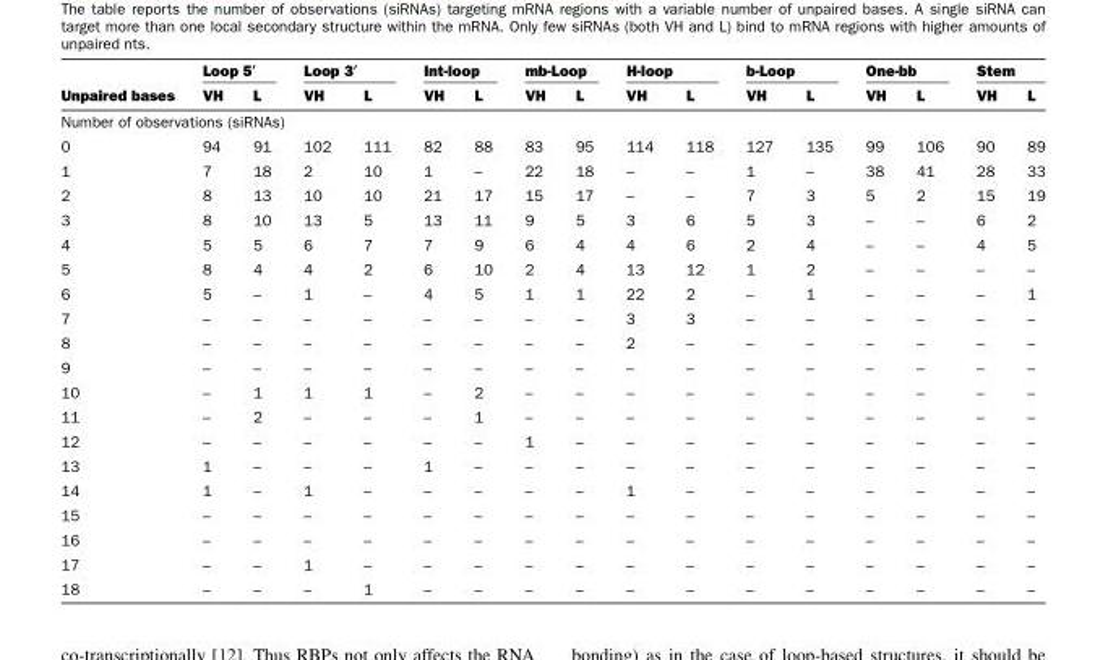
<table><thead><tr><td rowspan="2">Unpaired bases</td><td colspan="2">Loop 5′</td><td colspan="2">Loop 3′</td><td colspan="2">Int-loop</td><td colspan="2">mb-Loop</td><td colspan="2">H-loop</td><td colspan="2">b-Loop</td><td colspan="2">One-bb</td><td colspan="2">Stem</td></tr><tr><td>VH</td><td>L</td><td>VH</td><td>L</td><td>VH</td><td>L</td><td>VH</td><td>L</td><td>VH</td><td>L</td><td>VH</td><td>L</td><td>VH</td><td>L</td><td>VH</td><td>L</td></tr></thead><tbody><tr><td colspan="17">Number of observations (siRNAs)</td></tr><tr><td>0</td><td>94</td><td>91</td><td>102</td><td>111</td><td>82</td><td>88</td><td>83</td><td>95</td><td>114</td><td>118</td><td>127</td><td>135</td><td>99</td><td>106</td><td>90</td><td>89</td></tr><tr><td>1</td><td>7</td><td>18</td><td>2</td><td>10</td><td>1</td><td>–</td><td>22</td><td>18</td><td>–</td><td>–</td><td>1</td><td>–</td><td>38</td><td>41</td><td>28</td><td>33</td></tr><tr><td>2</td><td>8</td><td>13</td><td>10</td><td>10</td><td>21</td><td>17</td><td>15</td><td>17</td><td>–</td><td>–</td><td>7</td><td>3</td><td>5</td><td>2</td><td>15</td><td>19</td></tr><tr><td>3</td><td>8</td><td>10</td><td>13</td><td>5</td><td>13</td><td>11</td><td>9</td><td>5</td><td>3</td><td>6</td><td>5</td><td>3</td><td>–</td><td>–</td><td>6</td><td>2</td></tr><tr><td>4</td><td>5</td><td>5</td><td>6</td><td>7</td><td>7</td><td>9</td><td>6</td><td>4</td><td>4</td><td>6</td><td>2</td><td>4</td><td>–</td><td>–</td><td>4</td><td>5</td></tr><tr><td>5</td><td>8</td><td>4</td><td>4</td><td>2</td><td>6</td><td>10</td><td>2</td><td>4</td><td>13</td><td>12</td><td>1</td><td>2</td><td>–</td><td>–</td><td>–</td><td>–</td></tr><tr><td>6</td><td>5</td><td>–</td><td>1</td><td>–</td><td>4</td><td>5</td><td>1</td><td>1</td><td>22</td><td>2</td><td>–</td><td>1</td><td>–</td><td>–</td><td>–</td><td>1</td></tr><tr><td>7</td><td>–</td><td>–</td><td>–</td><td>–</td><td>–</td><td>–</td><td>–</td><td>–</td><td>3</td><td>3</td><td>–</td><td>–</td><td>–</td><td>–</td><td>–</td><td>–</td></tr><tr><td>8</td><td>–</td><td>–</td><td>–</td><td>–</td><td>–</td><td>–</td><td>–</td><td>–</td><td>2</td><td>–</td><td>–</td><td>–</td><td>–</td><td>–</td><td>–</td><td>–</td></tr><tr><td>9</td><td>–</td><td>–</td><td>–</td><td>–</td><td>–</td><td>–</td><td>–</td><td>–</td><td>–</td><td>–</td><td>–</td><td>–</td><td>–</td><td>–</td><td>–</td><td>–</td></tr><tr><td>10</td><td>–</td><td>1</td><td>1</td><td>1</td><td>–</td><td>2</td><td>–</td><td>–</td><td>–</td><td>–</td><td>–</td><td>–</td><td>–</td><td>–</td><td>–</td><td>–</td></tr><tr><td>11</td><td>–</td><td>2</td><td>–</td><td>–</td><td>–</td><td>1</td><td>–</td><td>–</td><td>–</td><td>–</td><td>–</td><td>–</td><td>–</td><td>–</td><td>–</td><td>–</td></tr><tr><td>12</td><td>–</td><td>–</td><td>–</td><td>–</td><td>–</td><td>–</td><td>1</td><td>–</td><td>–</td><td>–</td><td>–</td><td>–</td><td>–</td><td>–</td><td>–</td><td>–</td></tr><tr><td>13</td><td>1</td><td>–</td><td>–</td><td>–</td><td>1</td><td>–</td><td>–</td><td>–</td><td>–</td><td>–</td><td>–</td><td>–</td><td>–</td><td>–</td><td>–</td><td>–</td></tr><tr><td>14</td><td>1</td><td>–</td><td>1</td><td>–</td><td>–</td><td>–</td><td>–</td><td>–</td><td>1</td><td>–</td><td>–</td><td>–</td><td>–</td><td>–</td><td>–</td><td>–</td></tr><tr><td>15</td><td>–</td><td>–</td><td>–</td><td>–</td><td>–</td><td>–</td><td>–</td><td>–</td><td>–</td><td>–</td><td>–</td><td>–</td><td>–</td><td>–</td><td>–</td><td>–</td></tr><tr><td>16</td><td>–</td><td>–</td><td>–</td><td>–</td><td>–</td><td>–</td><td>–</td><td>–</td><td>–</td><td>–</td><td>–</td><td>–</td><td>–</td><td>–</td><td>–</td><td>–</td></tr><tr><td>17</td><td>–</td><td>–</td><td>1</td><td>–</td><td>–</td><td>–</td><td>–</td><td>–</td><td>–</td><td>–</td><td>–</td><td>–</td><td>–</td><td>–</td><td>–</td><td>–</td></tr><tr><td>18</td><td>–</td><td>–</td><td>–</td><td>1</td><td>–</td><td>–</td><td>–</td><td>–</td><td>–</td><td>–</td><td>–</td><td>–</td><td>–</td><td>–</td><td>–</td><td>–</td></tr></tbody></table>